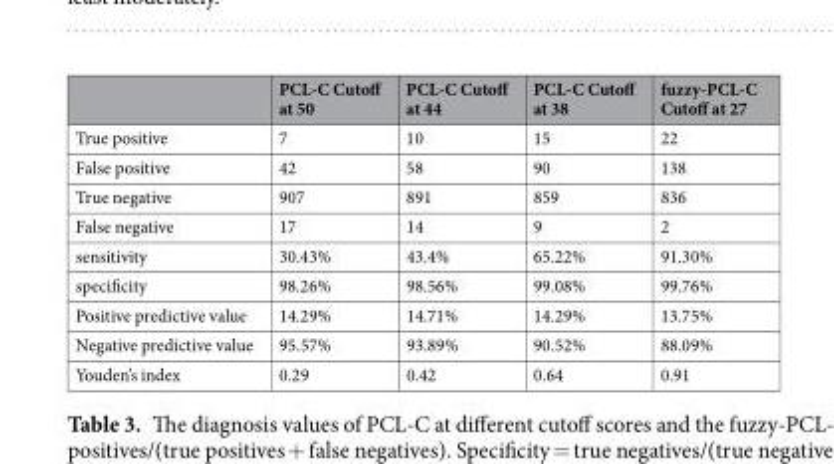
<table><thead><tr><td></td><td>PCL-C Cutoff at 50</td><td>PCL-C Cutoff at 44</td><td>PCL-C Cutoff at 38</td><td>fuzzy-PCL-C Cutoff at 27</td></tr></thead><tbody><tr><td>True positive</td><td>7</td><td>10</td><td>15</td><td>22</td></tr><tr><td>False positive</td><td>42</td><td>58</td><td>90</td><td>138</td></tr><tr><td>True negative</td><td>907</td><td>891</td><td>859</td><td>836</td></tr><tr><td>False negative</td><td>17</td><td>14</td><td>9</td><td>2</td></tr><tr><td>sensitivity</td><td>30.43%</td><td>43.4%</td><td>65.22%</td><td>91.30%</td></tr><tr><td>specificity</td><td>98.26%</td><td>98.56%</td><td>99.08%</td><td>99.76%</td></tr><tr><td>Positive predictive value</td><td>14.29%</td><td>14.71%</td><td>14.29%</td><td>13.75%</td></tr><tr><td>Negative predictive value</td><td>95.57%</td><td>93.89%</td><td>90.52%</td><td>88.09%</td></tr><tr><td>Youden’s index</td><td>0.29</td><td>0.42</td><td>0.64</td><td>0.91</td></tr></tbody></table>